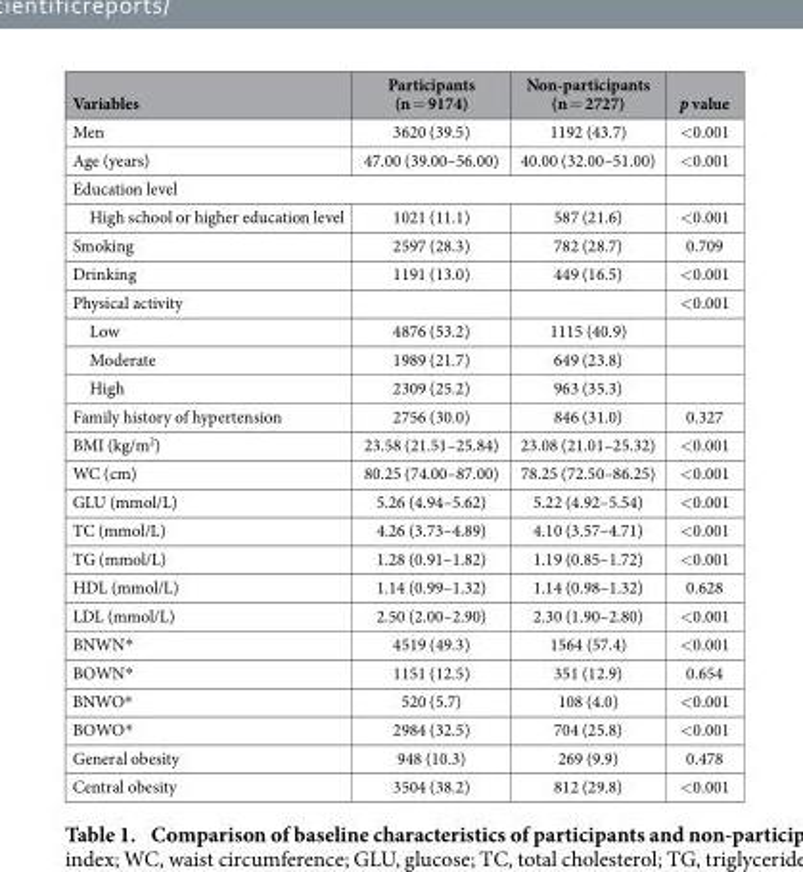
<table><thead><tr><td>Variables</td><td>Participants (n = 9174)</td><td>Non-participants (n = 2727)</td><td>p value</td></tr></thead><tbody><tr><td>Men</td><td>3620 (39.5)</td><td>1192 (43.7)</td><td>&lt; 0.001</td></tr><tr><td>Age (years)</td><td>47.00 (39.00–56.00)</td><td>40.00 (32.00–51.00)</td><td>&lt; 0.001</td></tr><tr><td colspan="4">Education level</td></tr><tr><td>High school or higher education level</td><td>1021 (11.1)</td><td>587 (21.6)</td><td>&lt; 0.001</td></tr><tr><td>Smoking</td><td>2597 (28.3)</td><td>782 (28.7)</td><td>0.709</td></tr><tr><td>Drinking</td><td>1191 (13.0)</td><td>449 (16.5)</td><td>&lt; 0.001</td></tr><tr><td>Physical activity</td><td></td><td></td><td>&lt; 0.001</td></tr><tr><td>Low</td><td>4876 (53.2)</td><td>1115 (40.9)</td><td></td></tr><tr><td>Moderate</td><td>1989 (21.7)</td><td>649 (23.8)</td><td></td></tr><tr><td>High</td><td>2309 (25.2)</td><td>963 (35.3)</td><td></td></tr><tr><td>Family history of hypertension</td><td>2756 (30.0)</td><td>846 (31.0)</td><td>0.327</td></tr><tr><td>BMI (kg/m<sup>2</sup>)</td><td>23.58 (21.51–25.84)</td><td>23.08 (21.01–25.32)</td><td>&lt; 0.001</td></tr><tr><td>WC (cm)</td><td>80.25 (74.00–87.00)</td><td>78.25 (72.50–86.25)</td><td>&lt; 0.001</td></tr><tr><td>GLU (mmol/L)</td><td>5.26 (4.94–5.62)</td><td>5.22 (4.92–5.54)</td><td>&lt; 0.001</td></tr><tr><td>TC (mmol/L)</td><td>4.26 (3.73–4.89)</td><td>4.10 (3.57–4.71)</td><td>&lt; 0.001</td></tr><tr><td>TG (mmol/L)</td><td>1.28 (0.91–1.82)</td><td>1.19 (0.85–1.72)</td><td>&lt; 0.001</td></tr><tr><td>HDL (mmol/L)</td><td>1.14 (0.99–1.32)</td><td>1.14 (0.98–1.32)</td><td>0.628</td></tr><tr><td>LDL (mmol/L)</td><td>2.50 (2.00–2.90)</td><td>2.30 (1.90–2.80)</td><td>&lt; 0.001</td></tr><tr><td>BNWN*</td><td>4519 (49.3)</td><td>1564 (57.4)</td><td>&lt; 0.001</td></tr><tr><td>BOWN*</td><td>1151 (12.5)</td><td>351 (12.9)</td><td>0.654</td></tr><tr><td>BNWO*</td><td>520 (5.7)</td><td>108 (4.0)</td><td>&lt; 0.001</td></tr><tr><td>BOWO*</td><td>2984 (32.5)</td><td>704 (25.8)</td><td>&lt; 0.001</td></tr><tr><td>General obesity</td><td>948 (10.3)</td><td>269 (9.9)</td><td>0.478</td></tr><tr><td>Central obesity</td><td>3504 (38.2)</td><td>812 (29.8)</td><td>&lt; 0.001</td></tr></tbody></table>